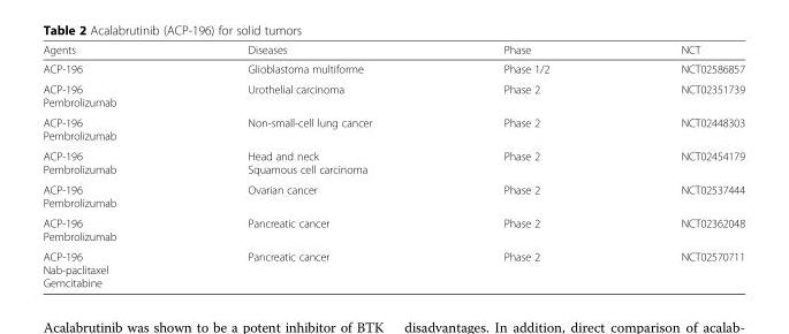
<table><thead><tr><td>Agents</td><td>Diseases</td><td>Phase</td><td>NCT</td></tr></thead><tbody><tr><td>ACP-196</td><td>Glioblastoma multiforme</td><td>Phase 1/2</td><td>NCT02586857</td></tr><tr><td>ACP-196 Pembrolizumab</td><td>Urothelial carcinoma</td><td>Phase 2</td><td>NCT02351739</td></tr><tr><td>ACP-196 Pembrolizumab</td><td>Non-small-cell lung cancer</td><td>Phase 2</td><td>NCT02448303</td></tr><tr><td>ACP-196 Pembrolizumab</td><td>Head and neck Squamous cell carcinoma</td><td>Phase 2</td><td>NCT02454179</td></tr><tr><td>ACP-196 Pembrolizumab</td><td>Ovarian cancer</td><td>Phase 2</td><td>NCT02537444</td></tr><tr><td>ACP-196 Pembrolizumab</td><td>Pancreatic cancer</td><td>Phase 2</td><td>NCT02362048</td></tr><tr><td>ACP-196 Nab-paclitaxel Gemcitabine</td><td>Pancreatic cancer</td><td>Phase 2</td><td>NCT02570711</td></tr></tbody></table>